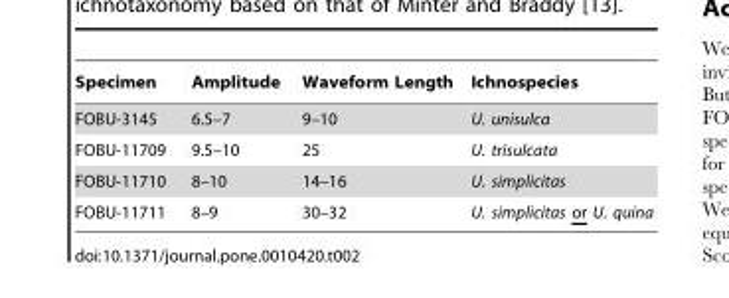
<table><thead><tr><td>Specimen</td><td>Amplitude</td><td>Waveform Length</td><td>Ichnospecies</td></tr></thead><tbody><tr><td>FOBU-3145</td><td>6.5–7</td><td>9–10</td><td>U. unisulca</td></tr><tr><td>FOBU-11709</td><td>9.5–10</td><td>25</td><td>U. trisulcata</td></tr><tr><td>FOBU-11710</td><td>8–10</td><td>14–16</td><td>U. simplicitas</td></tr><tr><td>FOBU-11711</td><td>8–9</td><td>30–32</td><td>U. simplicitas or U. quina</td></tr></tbody></table>